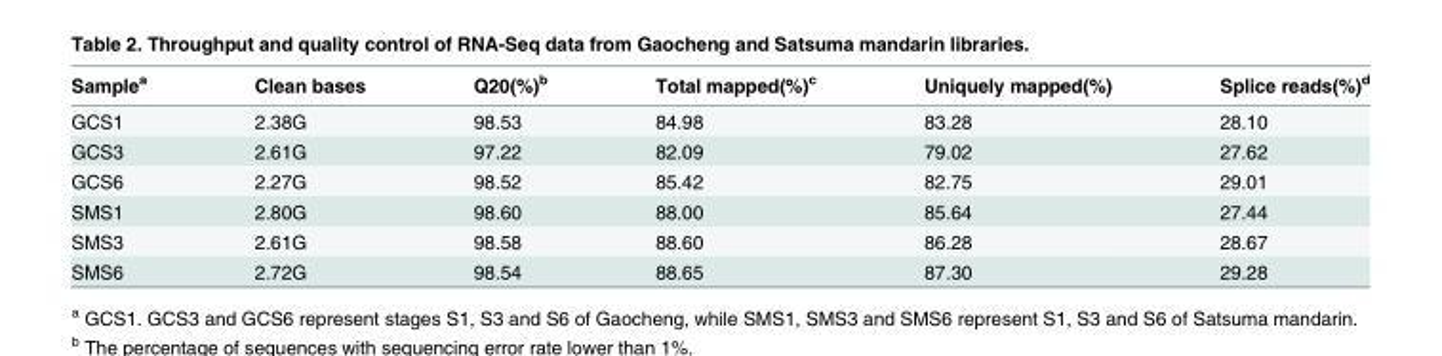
<table><thead><tr><td>Sample<sup>a</sup></td><td>Clean bases</td><td>Q20(%)<sup>b</sup></td><td>Total mapped(%)<sup>c</sup></td><td>Uniquely mapped(%)</td><td>Splice reads(%)<sup>d</sup></td></tr></thead><tbody><tr><td>GCS1</td><td>2.38G</td><td>98.53</td><td>84.98</td><td>83.28</td><td>28.10</td></tr><tr><td>GCS3</td><td>2.61G</td><td>97.22</td><td>82.09</td><td>79.02</td><td>27.62</td></tr><tr><td>GCS6</td><td>2.27G</td><td>98.52</td><td>85.42</td><td>82.75</td><td>29.01</td></tr><tr><td>SMS1</td><td>2.80G</td><td>98.60</td><td>88.00</td><td>85.64</td><td>27.44</td></tr><tr><td>SMS3</td><td>2.61G</td><td>98.58</td><td>88.60</td><td>86.28</td><td>28.67</td></tr><tr><td>SMS6</td><td>2.72G</td><td>98.54</td><td>88.65</td><td>87.30</td><td>29.28</td></tr></tbody></table>